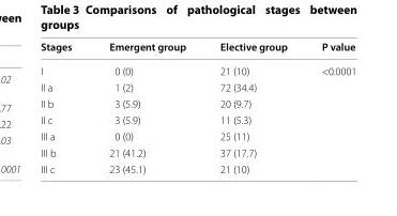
<table><thead><tr><td>Stages</td><td>Emergent group</td><td>Elective group</td><td>P value</td></tr></thead><tbody><tr><td>I</td><td>0 (0)</td><td>21 (10)</td><td>&lt;0.0001</td></tr><tr><td>II a</td><td>1 (2)</td><td>72 (34.4)</td><td></td></tr><tr><td>II b</td><td>3 (5.9)</td><td>20 (9.7)</td><td></td></tr><tr><td>II c</td><td>3 (5.9)</td><td>11 (5.3)</td><td></td></tr><tr><td>III a</td><td>0 (0)</td><td>25 (11)</td><td></td></tr><tr><td>III b</td><td>21 (41.2)</td><td>37 (17.7)</td><td></td></tr><tr><td>III c</td><td>23 (45.1)</td><td>21 (10)</td><td></td></tr></tbody></table>